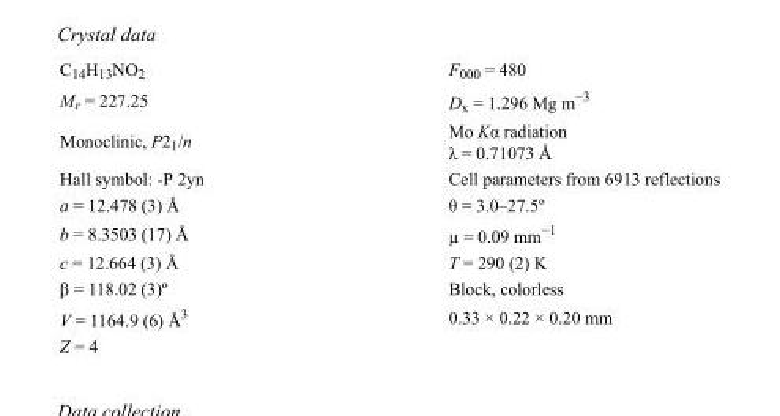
<table><tbody><tr><td>C<sub>14</sub>H<sub>13</sub>NO<sub>2</sub></td><td>F<sub>000</sub> = 480</td></tr><tr><td>M<sub>r</sub> = 227.25</td><td>D<sub>x</sub> = 1.296 Mg m<sup>−3</sup></td></tr><tr><td>Monoclinic, P2<sub>1</sub>/n</td><td>Mo Kα radiation λ = 0.71073 Å</td></tr><tr><td>Hall symbol: -P 2yn</td><td>Cell parameters from 6913 reflections</td></tr><tr><td>a = 12.478 (3) Å</td><td>θ = 3.0–27.5º</td></tr><tr><td>b = 8.3503 (17) Å</td><td>µ = 0.09 mm<sup>−1</sup></td></tr><tr><td>c = 12.664 (3) Å</td><td>T = 290 (2) K</td></tr><tr><td>β = 118.02 (3)º</td><td>Block, colorless</td></tr><tr><td>V = 1164.9 (6) Å<sup>3</sup></td><td>0.33 × 0.22 × 0.20 mm</td></tr><tr><td>Z = 4</td><td></td></tr></tbody></table>